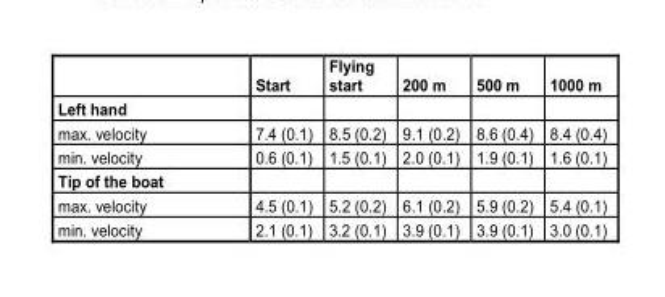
<table><thead><tr><td></td><td>Start</td><td>Flying start</td><td>200 m</td><td>500 m</td><td>1000 m</td></tr></thead><tbody><tr><td colspan="6">Left hand</td></tr><tr><td>max. velocity</td><td>7.4 (0.1)</td><td>8.5 (0.2)</td><td>9.1 (0.2)</td><td>8.6 (0.4)</td><td>8.4 (0.4)</td></tr><tr><td>min. velocity</td><td>0.6 (0.1)</td><td>1.5 (0.1)</td><td>2.0 (0.1)</td><td>1.9 (0.1)</td><td>1.6 (0.1)</td></tr><tr><td colspan="6">Tip of the boat</td></tr><tr><td>max. velocity</td><td>4.5 (0.1)</td><td>5.2 (0.2)</td><td>6.1 (0.2)</td><td>5.9 (0.2)</td><td>5.4 (0.1)</td></tr><tr><td>min. velocity</td><td>2.1 (0.1)</td><td>3.2 (0.1)</td><td>3.9 (0.1)</td><td>3.9 (0.1)</td><td>3.0 (0.1)</td></tr></tbody></table>